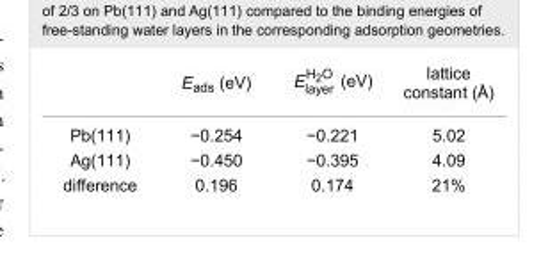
<table><thead><tr><td></td><td>E<sub>ads</sub> (eV)</td><td>(eV)</td><td>lattice constant (Å)</td></tr></thead><tbody><tr><td>Pb(111)</td><td>−0.254</td><td>−0.221</td><td>5.02</td></tr><tr><td>Ag(111)</td><td>−0.450</td><td>−0.395</td><td>4.09</td></tr><tr><td>difference</td><td>0.196</td><td>0.174</td><td>21%</td></tr></tbody></table>